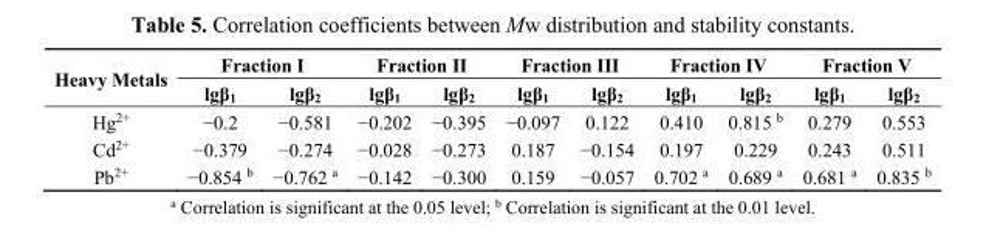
<table><thead><tr><td rowspan="2">Heavy Metals</td><td colspan="2">Fraction I</td><td colspan="2">Fraction II</td><td colspan="2">Fraction III</td><td colspan="2">Fraction IV</td><td colspan="2">Fraction V</td></tr><tr><td>lgβ<sub>1</sub></td><td>lgβ<sub>2</sub></td><td>lgβ<sub>1</sub></td><td>lgβ<sub>2</sub></td><td>lgβ<sub>1</sub></td><td>lgβ<sub>2</sub></td><td>lgβ<sub>1</sub></td><td>lgβ<sub>2</sub></td><td>lgβ<sub>1</sub></td><td>lgβ<sub>2</sub></td></tr></thead><tbody><tr><td>Hg<sup>2+</sup></td><td>−0.2</td><td>−0.581</td><td>−0.202</td><td>−0.395</td><td>−0.097</td><td>0.122</td><td>0.410</td><td>0.815 <sup>b</sup></td><td>0.279</td><td>0.553</td></tr><tr><td>Cd<sup>2+</sup></td><td>−0.379</td><td>−0.274</td><td>−0.028</td><td>−0.273</td><td>0.187</td><td>−0.154</td><td>0.197</td><td>0.229</td><td>0.243</td><td>0.511</td></tr><tr><td>Pb<sup>2+</sup></td><td>−0.854 <sup>b</sup></td><td>−0.762 <sup>a</sup></td><td>−0.142</td><td>−0.300</td><td>0.159</td><td>−0.057</td><td>0.702 <sup>a</sup></td><td>0.689 <sup>a</sup></td><td>0.681 <sup>a</sup></td><td>0.835 <sup>b</sup></td></tr></tbody></table>